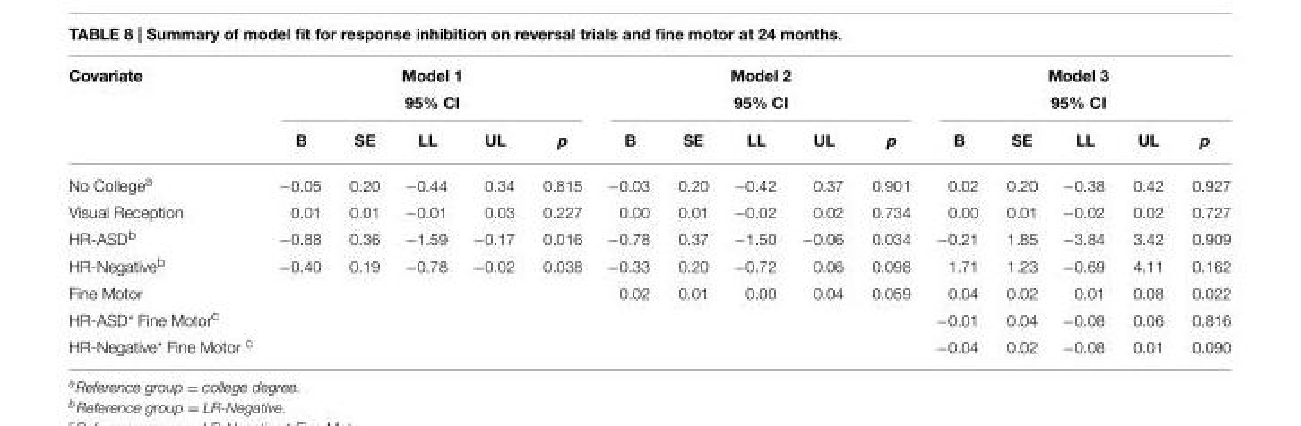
<table><thead><tr><td rowspan="2">Covariate</td><td colspan="5">Model 1 95% CI</td><td colspan="5">Model 2 95% CI</td><td colspan="5">Model 3 95% CI</td></tr><tr><td>B</td><td>SE</td><td>LL</td><td>UL</td><td>p</td><td>B</td><td>SE</td><td>LL</td><td>UL</td><td>p</td><td>B</td><td>SE</td><td>LL</td><td>UL</td><td>p</td></tr></thead><tbody><tr><td>No College<sup>a</sup></td><td>−0.05</td><td>0.20</td><td>−0.44</td><td>0.34</td><td>0.815</td><td>−0.03</td><td>0.20</td><td>−0.42</td><td>0.37</td><td>0.901</td><td>0.02</td><td>0.20</td><td>−0.38</td><td>0.42</td><td>0.927</td></tr><tr><td>Visual Reception</td><td>0.01</td><td>0.01</td><td>−0.01</td><td>0.03</td><td>0.227</td><td>0.00</td><td>0.01</td><td>−0.02</td><td>0.02</td><td>0.734</td><td>0.00</td><td>0.01</td><td>−0.02</td><td>0.02</td><td>0.727</td></tr><tr><td>HR-ASD<sup>b</sup></td><td>−0.88</td><td>0.36</td><td>−1.59</td><td>−0.17</td><td>0.016</td><td>−0.78</td><td>0.37</td><td>−1.50</td><td>−0.06</td><td>0.034</td><td>−0.21</td><td>1.85</td><td>−3.84</td><td>3.42</td><td>0.909</td></tr><tr><td>HR-Negative<sup>b</sup></td><td>−0.40</td><td>0.19</td><td>−0.78</td><td>−0.02</td><td>0.038</td><td>−0.33</td><td>0.20</td><td>−0.72</td><td>0.06</td><td>0.098</td><td>1.71</td><td>1.23</td><td>−0.69</td><td>4.11</td><td>0.162</td></tr><tr><td>Fine Motor</td><td></td><td></td><td></td><td></td><td></td><td>0.02</td><td>0.01</td><td>0.00</td><td>0.04</td><td>0.059</td><td>0.04</td><td>0.02</td><td>0.01</td><td>0.08</td><td>0.022</td></tr><tr><td>HR-ASD* Fine Motor<sup>c</sup></td><td></td><td></td><td></td><td></td><td></td><td></td><td></td><td></td><td></td><td></td><td>−0.01</td><td>0.04</td><td>−0.08</td><td>0.06</td><td>0.816</td></tr><tr><td>HR-Negative* Fine Motor <sup>c</sup></td><td></td><td></td><td></td><td></td><td></td><td></td><td></td><td></td><td></td><td></td><td>−0.04</td><td>0.02</td><td>−0.08</td><td>0.01</td><td>0.090</td></tr></tbody></table>